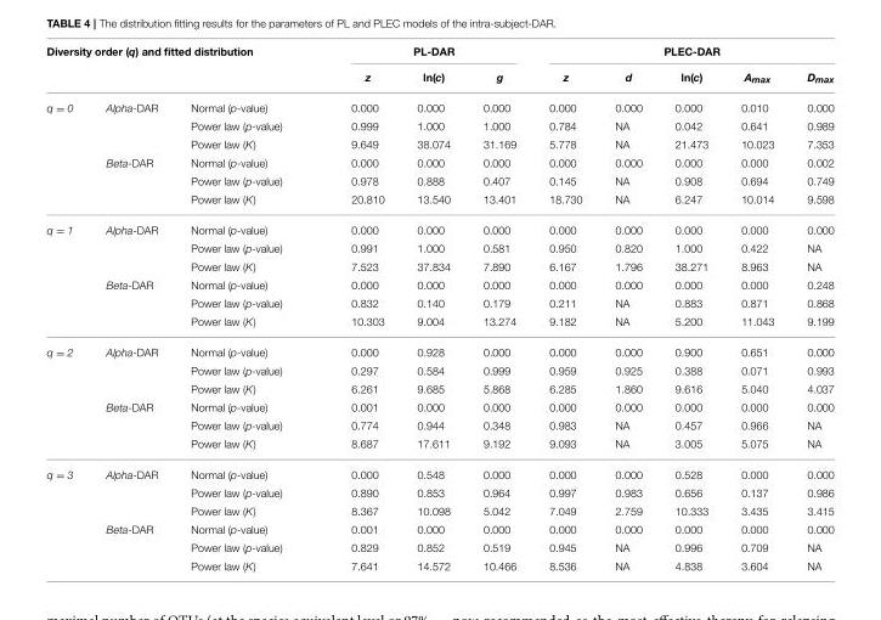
<table><thead><tr><td colspan="3">Diversity order (q) and fitted distribution</td><td colspan="3">PL-DAR</td><td colspan="5">PLEC-DAR</td></tr><tr><td></td><td></td><td></td><td>z</td><td>ln(c)</td><td>g</td><td>z</td><td>d</td><td>ln(c)</td><td>Amax</td><td>Dmax</td></tr></thead><tbody><tr><td rowspan="6">q = 0</td><td>Alpha-DAR</td><td>Normal (p-value)</td><td>0.000</td><td>0.000</td><td>0.000</td><td>0.000</td><td>0.000</td><td>0.000</td><td>0.010</td><td>0.000</td></tr><tr><td></td><td>Power law (p-value)</td><td>0.999</td><td>1.000</td><td>1.000</td><td>0.784</td><td>NA</td><td>0.042</td><td>0.641</td><td>0.989</td></tr><tr><td></td><td>Power law (K)</td><td>9.649</td><td>38.074</td><td>31.169</td><td>5.778</td><td>NA</td><td>21.473</td><td>10.023</td><td>7.353</td></tr><tr><td>Beta-DAR</td><td>Normal (p-value)</td><td>0.000</td><td>0.000</td><td>0.000</td><td>0.000</td><td>0.000</td><td>0.000</td><td>0.000</td><td>0.002</td></tr><tr><td></td><td>Power law (p-value)</td><td>0.978</td><td>0.888</td><td>0.407</td><td>0.145</td><td>NA</td><td>0.908</td><td>0.694</td><td>0.749</td></tr><tr><td></td><td>Power law (K)</td><td>20.810</td><td>13.540</td><td>13.401</td><td>18.730</td><td>NA</td><td>6.247</td><td>10.014</td><td>9.598</td></tr><tr><td rowspan="6">q = 1</td><td>Alpha-DAR</td><td>Normal (p-value)</td><td>0.000</td><td>0.000</td><td>0.000</td><td>0.000</td><td>0.000</td><td>0.000</td><td>0.000</td><td>0.000</td></tr><tr><td></td><td>Power law (p-value)</td><td>0.991</td><td>1.000</td><td>0.581</td><td>0.950</td><td>0.820</td><td>1.000</td><td>0.422</td><td>NA</td></tr><tr><td></td><td>Power law (K)</td><td>7.523</td><td>37.834</td><td>7.890</td><td>6.167</td><td>1.796</td><td>38.271</td><td>8.963</td><td>NA</td></tr><tr><td>Beta-DAR</td><td>Normal (p-value)</td><td>0.000</td><td>0.000</td><td>0.000</td><td>0.000</td><td>0.000</td><td>0.000</td><td>0.000</td><td>0.248</td></tr><tr><td></td><td>Power law (p-value)</td><td>0.832</td><td>0.140</td><td>0.179</td><td>0.211</td><td>NA</td><td>0.883</td><td>0.871</td><td>0.868</td></tr><tr><td></td><td>Power law (K)</td><td>10.303</td><td>9.004</td><td>13.274</td><td>9.182</td><td>NA</td><td>5.200</td><td>11.043</td><td>9.199</td></tr><tr><td rowspan="6">q = 2</td><td>Alpha-DAR</td><td>Normal (p-value)</td><td>0.000</td><td>0.928</td><td>0.000</td><td>0.000</td><td>0.000</td><td>0.900</td><td>0.651</td><td>0.000</td></tr><tr><td></td><td>Power law (p-value)</td><td>0.297</td><td>0.584</td><td>0.999</td><td>0.959</td><td>0.925</td><td>0.388</td><td>0.071</td><td>0.993</td></tr><tr><td></td><td>Power law (K)</td><td>6.261</td><td>9.685</td><td>5.868</td><td>6.285</td><td>1.860</td><td>9.616</td><td>5.040</td><td>4.037</td></tr><tr><td>Beta-DAR</td><td>Normal (p-value)</td><td>0.001</td><td>0.000</td><td>0.000</td><td>0.000</td><td>0.000</td><td>0.000</td><td>0.000</td><td>0.000</td></tr><tr><td></td><td>Power law (p-value)</td><td>0.774</td><td>0.944</td><td>0.348</td><td>0.983</td><td>NA</td><td>0.457</td><td>0.966</td><td>NA</td></tr><tr><td></td><td>Power law (K)</td><td>8.687</td><td>17.611</td><td>9.192</td><td>9.093</td><td>NA</td><td>3.005</td><td>5.075</td><td>NA</td></tr><tr><td rowspan="6">q = 3</td><td>Alpha-DAR</td><td>Normal (p-value)</td><td>0.000</td><td>0.548</td><td>0.000</td><td>0.000</td><td>0.000</td><td>0.528</td><td>0.000</td><td>0.000</td></tr><tr><td></td><td>Power law (p-value)</td><td>0.890</td><td>0.853</td><td>0.964</td><td>0.997</td><td>0.983</td><td>0.656</td><td>0.137</td><td>0.986</td></tr><tr><td></td><td>Power law (K)</td><td>8.367</td><td>10.098</td><td>5.042</td><td>7.049</td><td>2.759</td><td>10.333</td><td>3.435</td><td>3.415</td></tr><tr><td>Beta-DAR</td><td>Normal (p-value)</td><td>0.001</td><td>0.000</td><td>0.000</td><td>0.000</td><td>0.000</td><td>0.000</td><td>0.000</td><td>0.000</td></tr><tr><td></td><td>Power law (p-value)</td><td>0.829</td><td>0.852</td><td>0.519</td><td>0.945</td><td>NA</td><td>0.996</td><td>0.709</td><td>NA</td></tr><tr><td></td><td>Power law (K)</td><td>7.641</td><td>14.572</td><td>10.466</td><td>8.536</td><td>NA</td><td>4.838</td><td>3.604</td><td>NA</td></tr></tbody></table>